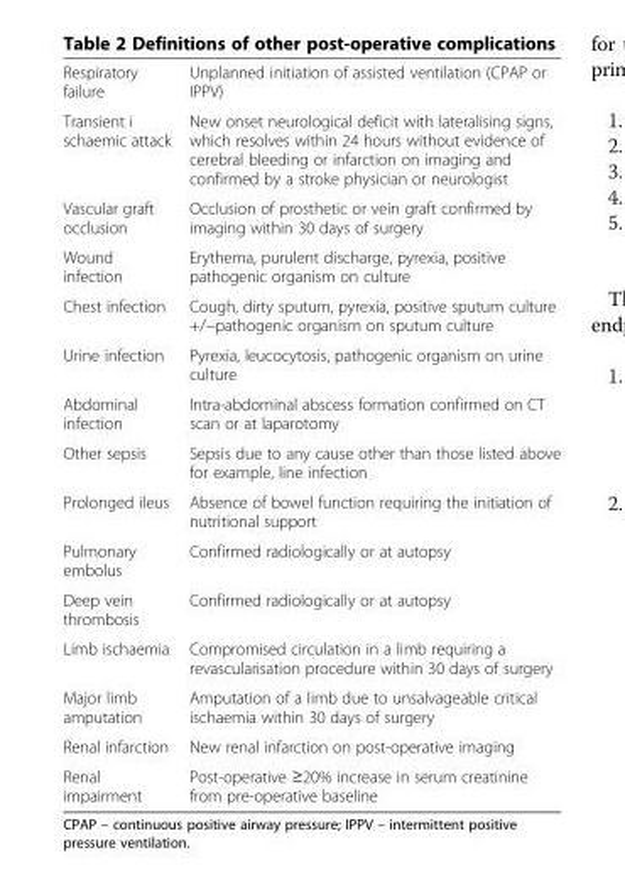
<table><tbody><tr><td>Respiratory failure</td><td>Unplanned initiation of assisted ventilation (CPAP or IPPV)</td></tr><tr><td>Transient i schaemic attack</td><td>New onset neurological deficit with lateralising signs, which resolves within 24 hours without evidence of cerebral bleeding or infarction on imaging and confirmed by a stroke physician or neurologist</td></tr><tr><td>Vascular graft occlusion</td><td>Occlusion of prosthetic or vein graft confirmed by imaging within 30 days of surgery</td></tr><tr><td>Wound infection</td><td>Erythema, purulent discharge, pyrexia, positive pathogenic organism on culture</td></tr><tr><td>Chest infection</td><td>Cough, dirty sputum, pyrexia, positive sputum culture +/−pathogenic organism on sputum culture</td></tr><tr><td>Urine infection</td><td>Pyrexia, leucocytosis, pathogenic organism on urine culture</td></tr><tr><td>Abdominal infection</td><td>Intra-abdominal abscess formation confirmed on CT scan or at laparotomy</td></tr><tr><td>Other sepsis</td><td>Sepsis due to any cause other than those listed above for example, line infection</td></tr><tr><td>Prolonged ileus</td><td>Absence of bowel function requiring the initiation of nutritional support</td></tr><tr><td>Pulmonary embolus</td><td>Confirmed radiologically or at autopsy</td></tr><tr><td>Deep vein thrombosis</td><td>Confirmed radiologically or at autopsy</td></tr><tr><td>Limb ischaemia</td><td>Compromised circulation in a limb requiring a revascularisation procedure within 30 days of surgery</td></tr><tr><td>Major limb amputation</td><td>Amputation of a limb due to unsalvageable critical ischaemia within 30 days of surgery</td></tr><tr><td>Renal infarction</td><td>New renal infarction on post-operative imaging</td></tr><tr><td>Renal impairment</td><td>Post-operative ≥20% increase in serum creatinine from pre-operative baseline</td></tr></tbody></table>